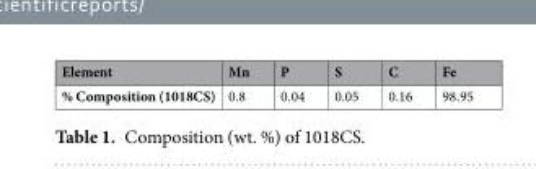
<table><thead><tr><td>Element</td><td>Mn</td><td>P</td><td>S</td><td>C</td><td>Fe</td></tr></thead><tbody><tr><td>% Composition (1018CS)</td><td>0.8</td><td>0.04</td><td>0.05</td><td>0.16</td><td>98.95</td></tr></tbody></table>